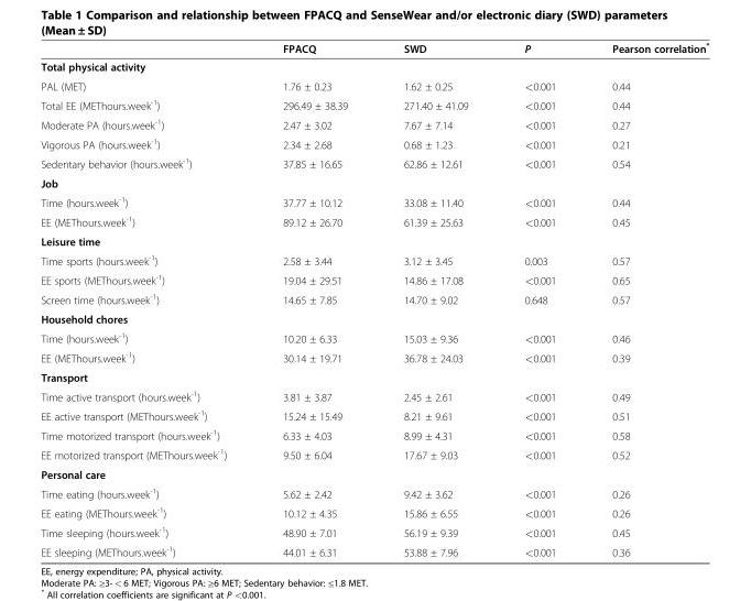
<table><thead><tr><td></td><td>FPACQ</td><td>SWD</td><td>P</td><td>Pearson correlation*</td></tr></thead><tbody><tr><td colspan="5">Total physical activity</td></tr><tr><td>PAL (MET)</td><td>1.76 ± 0.23</td><td>1.62 ± 0.25</td><td>&lt;0.001</td><td>0.44</td></tr><tr><td>Total EE (METhours.week<sup>-1</sup>)</td><td>296.49 ± 38.39</td><td>271.40 ± 41.09</td><td>&lt;0.001</td><td>0.44</td></tr><tr><td>Moderate PA (hours.week<sup>-1</sup>)</td><td>2.47 ± 3.02</td><td>7.67 ± 7.14</td><td>&lt;0.001</td><td>0.27</td></tr><tr><td>Vigorous PA (hours.week<sup>-1</sup>)</td><td>2.34 ± 2.68</td><td>0.68 ± 1.23</td><td>&lt;0.001</td><td>0.21</td></tr><tr><td>Sedentary behavior (hours.week<sup>-1</sup>)</td><td>37.85 ± 16.65</td><td>62.86 ± 12.61</td><td>&lt;0.001</td><td>0.54</td></tr><tr><td colspan="5">Job</td></tr><tr><td>Time (hours.week<sup>-1</sup>)</td><td>37.77 ± 10.12</td><td>33.08 ± 11.40</td><td>&lt;0.001</td><td>0.44</td></tr><tr><td>EE (METhours.week<sup>-1</sup>)</td><td>89.12 ± 26.70</td><td>61.39 ± 25.63</td><td>&lt;0.001</td><td>0.45</td></tr><tr><td colspan="5">Leisure time</td></tr><tr><td>Time sports (hours.week<sup>-1</sup>)</td><td>2.58 ± 3.44</td><td>3.12 ± 3.45</td><td>0.003</td><td>0.57</td></tr><tr><td>EE sports (METhours.week<sup>-1</sup>)</td><td>19.04 ± 29.51</td><td>14.86 ± 17.08</td><td>&lt;0.001</td><td>0.65</td></tr><tr><td>Screen time (hours.week<sup>-1</sup>)</td><td>14.65 ± 7.85</td><td>14.70 ± 9.02</td><td>0.648</td><td>0.57</td></tr><tr><td colspan="5">Household chores</td></tr><tr><td>Time (hours.week<sup>-1</sup>)</td><td>10.20 ± 6.33</td><td>15.03 ± 9.36</td><td>&lt;0.001</td><td>0.46</td></tr><tr><td>EE (METhours.week<sup>-1</sup>)</td><td>30.14 ± 19.71</td><td>36.78 ± 24.03</td><td>&lt;0.001</td><td>0.39</td></tr><tr><td colspan="5">Transport</td></tr><tr><td>Time active transport (hours.week<sup>-1</sup>)</td><td>3.81 ± 3.87</td><td>2.45 ± 2.61</td><td>&lt;0.001</td><td>0.49</td></tr><tr><td>EE active transport (METhours.week<sup>-1</sup>)</td><td>15.24 ± 15.49</td><td>8.21 ± 9.61</td><td>&lt;0.001</td><td>0.51</td></tr><tr><td>Time motorized transport (hours.week<sup>-1</sup>)</td><td>6.33 ± 4.03</td><td>8.99 ± 4.31</td><td>&lt;0.001</td><td>0.58</td></tr><tr><td>EE motorized transport (METhours.week<sup>-1</sup>)</td><td>9.50 ± 6.04</td><td>17.67 ± 9.03</td><td>&lt;0.001</td><td>0.52</td></tr><tr><td colspan="5">Personal care</td></tr><tr><td>Time eating (hours.week<sup>-1</sup>)</td><td>5.62 ± 2.42</td><td>9.42 ± 3.62</td><td>&lt;0.001</td><td>0.26</td></tr><tr><td>EE eating (METhours.week<sup>-1</sup>)</td><td>10.12 ± 4.35</td><td>15.86 ± 6.55</td><td>&lt;0.001</td><td>0.26</td></tr><tr><td>Time sleeping (hours.week<sup>-1</sup>)</td><td>48.90 ± 7.01</td><td>56.19 ± 9.39</td><td>&lt;0.001</td><td>0.45</td></tr><tr><td>EE sleeping (METhours.week<sup>-1</sup>)</td><td>44.01 ± 6.31</td><td>53.88 ± 7.96</td><td>&lt;0.001</td><td>0.36</td></tr></tbody></table>